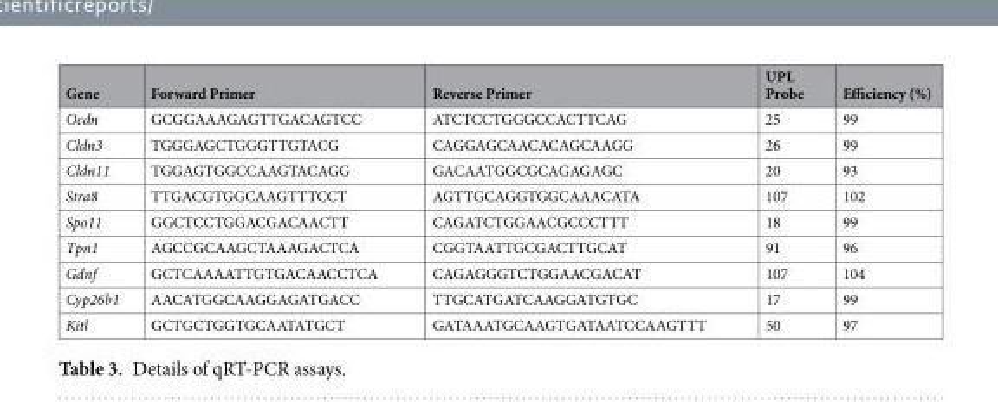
<table><thead><tr><td>Gene</td><td>Forward Primer</td><td>Reverse Primer</td><td>UPL Probe</td><td>Efficiency (%)</td></tr></thead><tbody><tr><td>Ocdn</td><td>GCGGAAAGAGTTGACAGTCC</td><td>ATCTCCTGGGCCACTTCAG</td><td>25</td><td>99</td></tr><tr><td>Cldn3</td><td>TGGGAGCTGGGTTGTACG</td><td>CAGGAGCAACACAGCAAGG</td><td>26</td><td>99</td></tr><tr><td>Cldn11</td><td>TGGAGTGGCCAAGTACAGG</td><td>GACAATGGCGCAGAGAGC</td><td>20</td><td>93</td></tr><tr><td>Stra8</td><td>TTGACGTGGCAAGTTTCCT</td><td>AGTTGCAGGTGGCAAACATA</td><td>107</td><td>102</td></tr><tr><td>Spo11</td><td>GGCTCCTGGACGACAACTT</td><td>CAGATCTGGAACGCCCTTT</td><td>18</td><td>99</td></tr><tr><td>Tpn1</td><td>AGCCGCAAGCTAAAGACTCA</td><td>CGGTAATTGCGACTTGCAT</td><td>91</td><td>96</td></tr><tr><td>Gdnf</td><td>GCTCAAAATTGTGACAACCTCA</td><td>CAGAGGGTCTGGAACGACAT</td><td>107</td><td>104</td></tr><tr><td>Cyp26b1</td><td>AACATGGCAAGGAGATGACC</td><td>TTGCATGATCAAGGATGTGC</td><td>17</td><td>99</td></tr><tr><td>Kitl</td><td>GCTGCTGGTGCAATATGCT</td><td>GATAAATGCAAGTGATAATCCAAGTTT</td><td>50</td><td>97</td></tr></tbody></table>